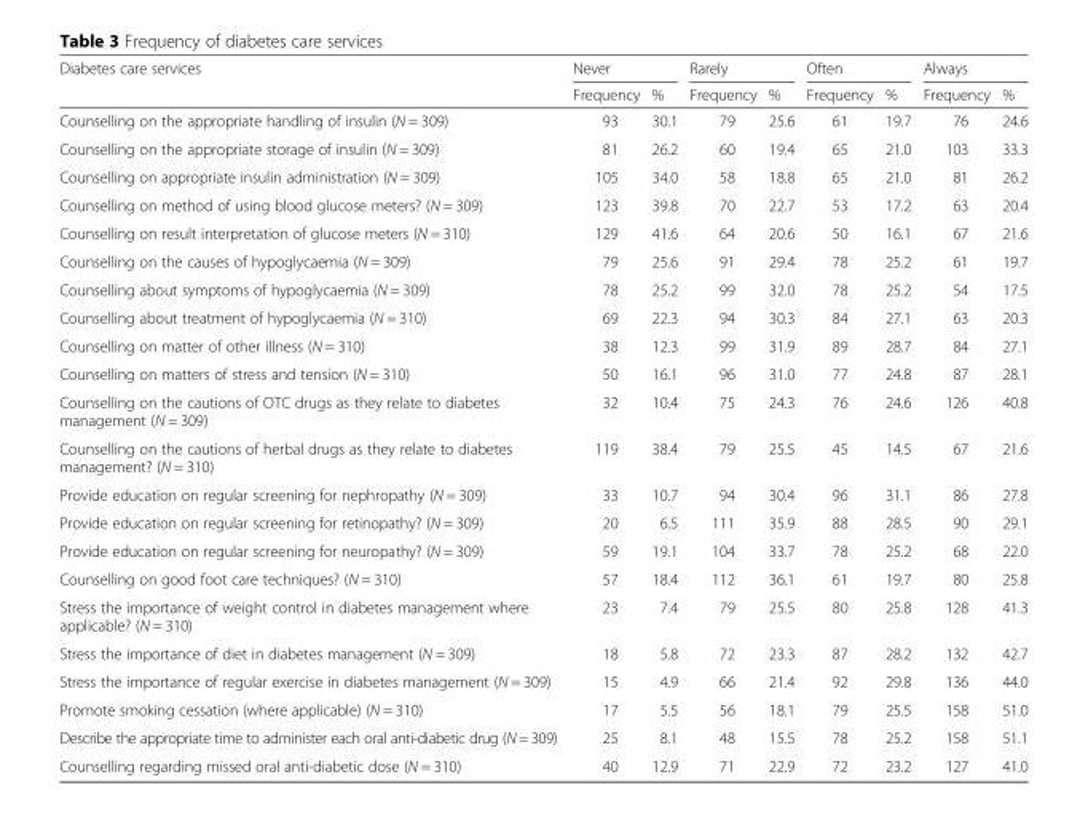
<table><thead><tr><td rowspan="2">Diabetes care services</td><td colspan="2">Never</td><td colspan="2">Rarely</td><td colspan="2">Often</td><td colspan="2">Always</td></tr><tr><td>Frequency</td><td>%</td><td>Frequency</td><td>%</td><td>Frequency</td><td>%</td><td>Frequency</td><td>%</td></tr></thead><tbody><tr><td>Counselling on the appropriate handling of insulin (N = 309)</td><td>93</td><td>30.1</td><td>79</td><td>25.6</td><td>61</td><td>19.7</td><td>76</td><td>24.6</td></tr><tr><td>Counselling on the appropriate storage of insulin (N = 309)</td><td>81</td><td>26.2</td><td>60</td><td>19.4</td><td>65</td><td>21.0</td><td>103</td><td>33.3</td></tr><tr><td>Counselling on appropriate insulin administration (N = 309)</td><td>105</td><td>34.0</td><td>58</td><td>18.8</td><td>65</td><td>21.0</td><td>81</td><td>26.2</td></tr><tr><td>Counselling on method of using blood glucose meters? (N = 309)</td><td>123</td><td>39.8</td><td>70</td><td>22.7</td><td>53</td><td>17.2</td><td>63</td><td>20.4</td></tr><tr><td>Counselling on result interpretation of glucose meters (N = 310)</td><td>129</td><td>41.6</td><td>64</td><td>20.6</td><td>50</td><td>16.1</td><td>67</td><td>21.6</td></tr><tr><td>Counselling on the causes of hypoglycaemia (N = 309)</td><td>79</td><td>25.6</td><td>91</td><td>29.4</td><td>78</td><td>25.2</td><td>61</td><td>19.7</td></tr><tr><td>Counselling about symptoms of hypoglycaemia (N = 309)</td><td>78</td><td>25.2</td><td>99</td><td>32.0</td><td>78</td><td>25.2</td><td>54</td><td>17.5</td></tr><tr><td>Counselling about treatment of hypoglycaemia (N = 310)</td><td>69</td><td>22.3</td><td>94</td><td>30.3</td><td>84</td><td>27.1</td><td>63</td><td>20.3</td></tr><tr><td>Counselling on matter of other illness (N = 310)</td><td>38</td><td>12.3</td><td>99</td><td>31.9</td><td>89</td><td>28.7</td><td>84</td><td>27.1</td></tr><tr><td>Counselling on matters of stress and tension (N = 310)</td><td>50</td><td>16.1</td><td>96</td><td>31.0</td><td>77</td><td>24.8</td><td>87</td><td>28.1</td></tr><tr><td>Counselling on the cautions of OTC drugs as they relate to diabetes management (N = 309)</td><td>32</td><td>10.4</td><td>75</td><td>24.3</td><td>76</td><td>24.6</td><td>126</td><td>40.8</td></tr><tr><td>Counselling on the cautions of herbal drugs as they relate to diabetes management? (N = 310)</td><td>119</td><td>38.4</td><td>79</td><td>25.5</td><td>45</td><td>14.5</td><td>67</td><td>21.6</td></tr><tr><td>Provide education on regular screening for nephropathy (N = 309)</td><td>33</td><td>10.7</td><td>94</td><td>30.4</td><td>96</td><td>31.1</td><td>86</td><td>27.8</td></tr><tr><td>Provide education on regular screening for retinopathy? (N = 309)</td><td>20</td><td>6.5</td><td>111</td><td>35.9</td><td>88</td><td>28.5</td><td>90</td><td>29.1</td></tr><tr><td>Provide education on regular screening for neuropathy? (N = 309)</td><td>59</td><td>19.1</td><td>104</td><td>33.7</td><td>78</td><td>25.2</td><td>68</td><td>22.0</td></tr><tr><td>Counselling on good foot care techniques? (N = 310)</td><td>57</td><td>18.4</td><td>112</td><td>36.1</td><td>61</td><td>19.7</td><td>80</td><td>25.8</td></tr><tr><td>Stress the importance of weight control in diabetes management where applicable? (N = 310)</td><td>23</td><td>7.4</td><td>79</td><td>25.5</td><td>80</td><td>25.8</td><td>128</td><td>41.3</td></tr><tr><td>Stress the importance of diet in diabetes management (N = 309)</td><td>18</td><td>5.8</td><td>72</td><td>23.3</td><td>87</td><td>28.2</td><td>132</td><td>42.7</td></tr><tr><td>Stress the importance of regular exercise in diabetes management (N = 309)</td><td>15</td><td>4.9</td><td>66</td><td>21.4</td><td>92</td><td>29.8</td><td>136</td><td>44.0</td></tr><tr><td>Promote smoking cessation (where applicable) (N = 310)</td><td>17</td><td>5.5</td><td>56</td><td>18.1</td><td>79</td><td>25.5</td><td>158</td><td>51.0</td></tr><tr><td>Describe the appropriate time to administer each oral anti-diabetic drug (N = 309)</td><td>25</td><td>8.1</td><td>48</td><td>15.5</td><td>78</td><td>25.2</td><td>158</td><td>51.1</td></tr><tr><td>Counselling regarding missed oral anti-diabetic dose (N = 310)</td><td>40</td><td>12.9</td><td>71</td><td>22.9</td><td>72</td><td>23.2</td><td>127</td><td>41.0</td></tr></tbody></table>